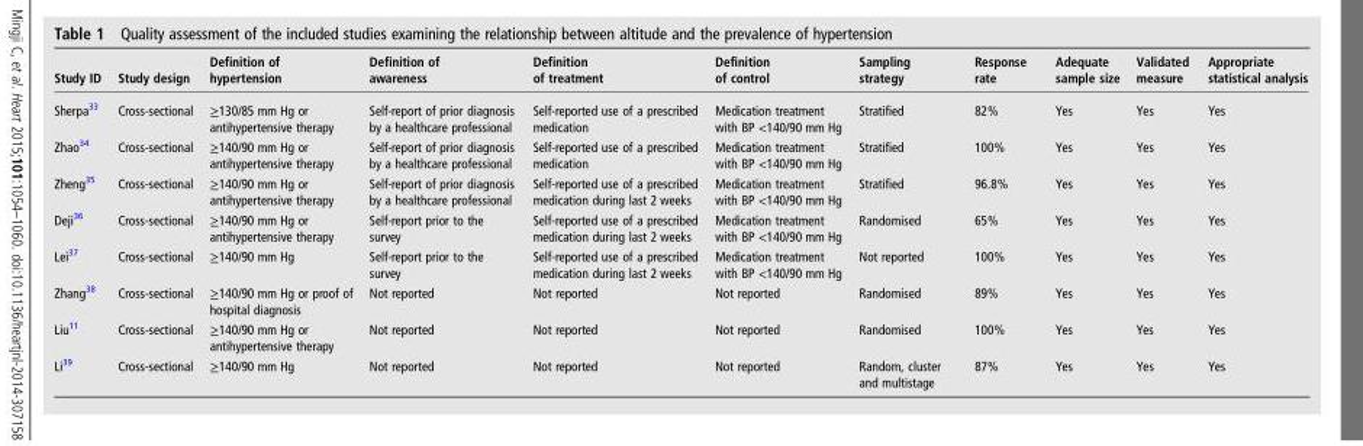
<table><thead><tr><td>Study ID</td><td>Study design</td><td>Definition of hypertension</td><td>Definition of awareness</td><td>Definition of treatment</td><td>Definition of control</td><td>Sampling strategy</td><td>Response rate</td><td>Adequate sample size</td><td>Validated measure</td><td>Appropriate statistical analysis</td></tr></thead><tbody><tr><td>Sherpa<sup>33</sup></td><td>Cross-sectional</td><td>≥130/85 mm Hg or antihypertensive therapy</td><td>Self-report of prior diagnosis by a healthcare professional</td><td>Self-reported use of a prescribed medication</td><td>Medication treatment with BP &lt;140/90 mm Hg</td><td>Stratified</td><td>82%</td><td>Yes</td><td>Yes</td><td>Yes</td></tr><tr><td>Zhao<sup>34</sup></td><td>Cross-sectional</td><td>≥140/90 mm Hg or antihypertensive therapy</td><td>Self-report of prior diagnosis by a healthcare professional</td><td>Self-reported use of a prescribed medication</td><td>Medication treatment with BP &lt;140/90 mm Hg</td><td>Stratified</td><td>100%</td><td>Yes</td><td>Yes</td><td>Yes</td></tr><tr><td>Zheng<sup>35</sup></td><td>Cross-sectional</td><td>≥140/90 mm Hg or antihypertensive therapy</td><td>Self-report of prior diagnosis by a healthcare professional</td><td>Self-reported use of a prescribed medication during last 2 weeks</td><td>Medication treatment with BP &lt;140/90 mm Hg</td><td>Stratified</td><td>96.8%</td><td>Yes</td><td>Yes</td><td>Yes</td></tr><tr><td>Deji<sup>36</sup></td><td>Cross-sectional</td><td>≥140/90 mm Hg or antihypertensive therapy</td><td>Self-report prior to the survey</td><td>Self-reported use of a prescribed medication during last 2 weeks</td><td>Medication treatment with BP &lt;140/90 mm Hg</td><td>Randomised</td><td>65%</td><td>Yes</td><td>Yes</td><td>Yes</td></tr><tr><td>Lei<sup>37</sup></td><td>Cross-sectional</td><td>≥140/90 mm Hg</td><td>Self-report prior to the survey</td><td>Self-reported use of a prescribed medication during last 2 weeks</td><td>Medication treatment with BP &lt;140/90 mm Hg</td><td>Not reported</td><td>100%</td><td>Yes</td><td>Yes</td><td>Yes</td></tr><tr><td>Zhang<sup>38</sup></td><td>Cross-sectional</td><td>≥140/90 mm Hg or proof of hospital diagnosis</td><td>Not reported</td><td>Not reported</td><td>Not reported</td><td>Randomised</td><td>89%</td><td>Yes</td><td>Yes</td><td>Yes</td></tr><tr><td>Liu<sup>11</sup></td><td>Cross-sectional</td><td>≥140/90 mm Hg or antihypertensive therapy</td><td>Not reported</td><td>Not reported</td><td>Not reported</td><td>Randomised</td><td>100%</td><td>Yes</td><td>Yes</td><td>Yes</td></tr><tr><td>Li<sup>39</sup></td><td>Cross-sectional</td><td>≥140/90 mm Hg</td><td>Not reported</td><td>Not reported</td><td>Not reported</td><td>Random, cluster and multistage</td><td>87%</td><td>Yes</td><td>Yes</td><td>Yes</td></tr></tbody></table>